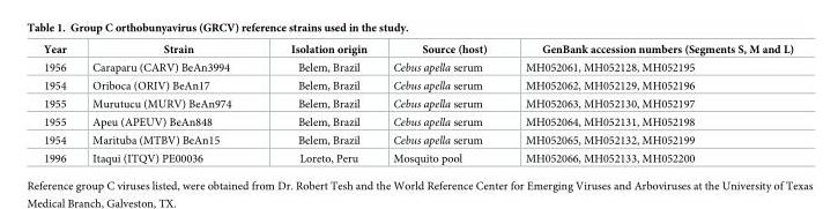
<table><thead><tr><td>Year</td><td>Strain</td><td>Isolation origin</td><td>Source (host)</td><td>GenBank accession numbers (Segments S, M and L)</td></tr></thead><tbody><tr><td>1956</td><td>Caraparu (CARV) BeAn3994</td><td>Belem, Brazil</td><td>Cebus apella serum</td><td>MH052061, MH052128, MH052195</td></tr><tr><td>1954</td><td>Oriboca (ORIV) BeAn17</td><td>Belem, Brazil</td><td>Cebus apella serum</td><td>MH052062, MH052129, MH052196</td></tr><tr><td>1955</td><td>Murutucu (MURV) BeAn974</td><td>Belem, Brazil</td><td>Cebus apella serum</td><td>MH052063, MH052130, MH052197</td></tr><tr><td>1955</td><td>Apeu (APEUV) BeAn848</td><td>Belem, Brazil</td><td>Cebus apella serum</td><td>MH052064, MH052131, MH052198</td></tr><tr><td>1954</td><td>Marituba (MTBV) BeAn15</td><td>Belem, Brazil</td><td>Cebus apella serum</td><td>MH052065, MH052132, MH052199</td></tr><tr><td>1996</td><td>Itaqui (ITQV) PE00036</td><td>Loreto, Peru</td><td>Mosquito pool</td><td>MH052066, MH052133, MH052200</td></tr></tbody></table>